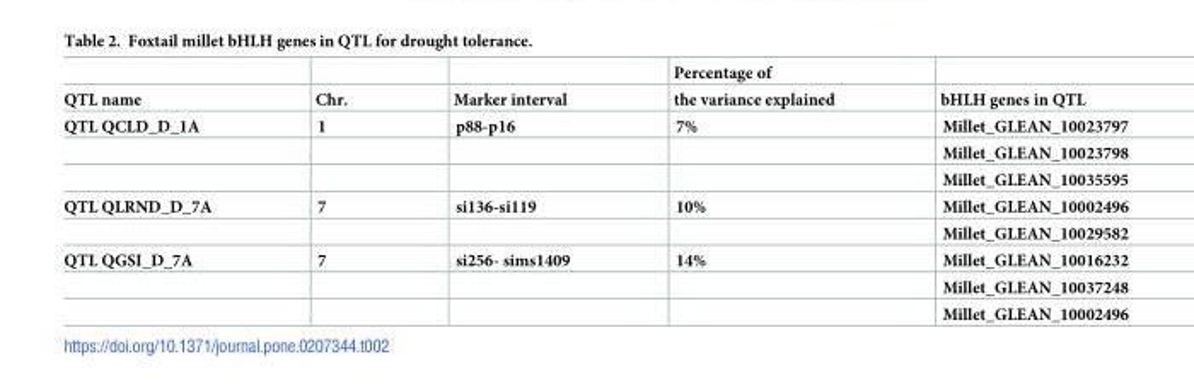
<table><thead><tr><td rowspan="2">QTL name</td><td rowspan="2">Chr.</td><td rowspan="2">Marker interval</td><td rowspan="2">Percentage of the variance explained</td><td rowspan="2">bHLH genes in QTL</td></tr><tr></tr></thead><tbody><tr><td rowspan="3">QTL QCLD_D_1A</td><td>1</td><td>p88-p16</td><td>7%</td><td>Millet_GLEAN_10023797</td></tr><tr><td></td><td></td><td></td><td>Millet_GLEAN_10023798</td></tr><tr><td></td><td></td><td></td><td>Millet_GLEAN_10035595</td></tr><tr><td rowspan="2">QTL QLRND_D_7A</td><td>7</td><td>si136-si119</td><td>10%</td><td>Millet_GLEAN_10002496</td></tr><tr><td></td><td></td><td></td><td>Millet_GLEAN_10029582</td></tr><tr><td rowspan="3">QTL QGSI_D_7A</td><td>7</td><td>si256- sims1409</td><td>14%</td><td>Millet_GLEAN_10016232</td></tr><tr><td></td><td></td><td></td><td>Millet_GLEAN_10037248</td></tr><tr><td></td><td></td><td></td><td>Millet_GLEAN_10002496</td></tr></tbody></table>